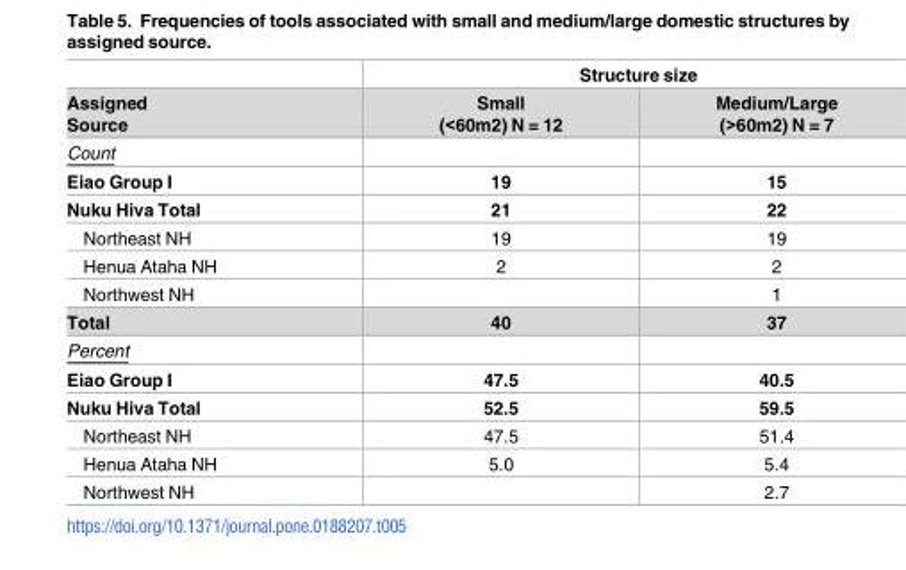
<table><thead><tr><td rowspan="2">Assigned Source</td><td colspan="2">Structure size</td></tr><tr><td>Small (&lt;60m2) N = 12</td><td>Medium/Large (&gt;60m2) N = 7</td></tr></thead><tbody><tr><td colspan="3">Count</td></tr><tr><td>Eiao Group I</td><td>19</td><td>15</td></tr><tr><td>Nuku Hiva Total</td><td>21</td><td>22</td></tr><tr><td>Northeast NH</td><td>19</td><td>19</td></tr><tr><td>Henua Ataha NH</td><td>2</td><td>2</td></tr><tr><td>Northwest NH</td><td></td><td>1</td></tr><tr><td>Total</td><td>40</td><td>37</td></tr><tr><td colspan="3">Percent</td></tr><tr><td>Eiao Group I</td><td>47.5</td><td>40.5</td></tr><tr><td>Nuku Hiva Total</td><td>52.5</td><td>59.5</td></tr><tr><td>Northeast NH</td><td>47.5</td><td>51.4</td></tr><tr><td>Henua Ataha NH</td><td>5.0</td><td>5.4</td></tr><tr><td>Northwest NH</td><td></td><td>2.7</td></tr></tbody></table>